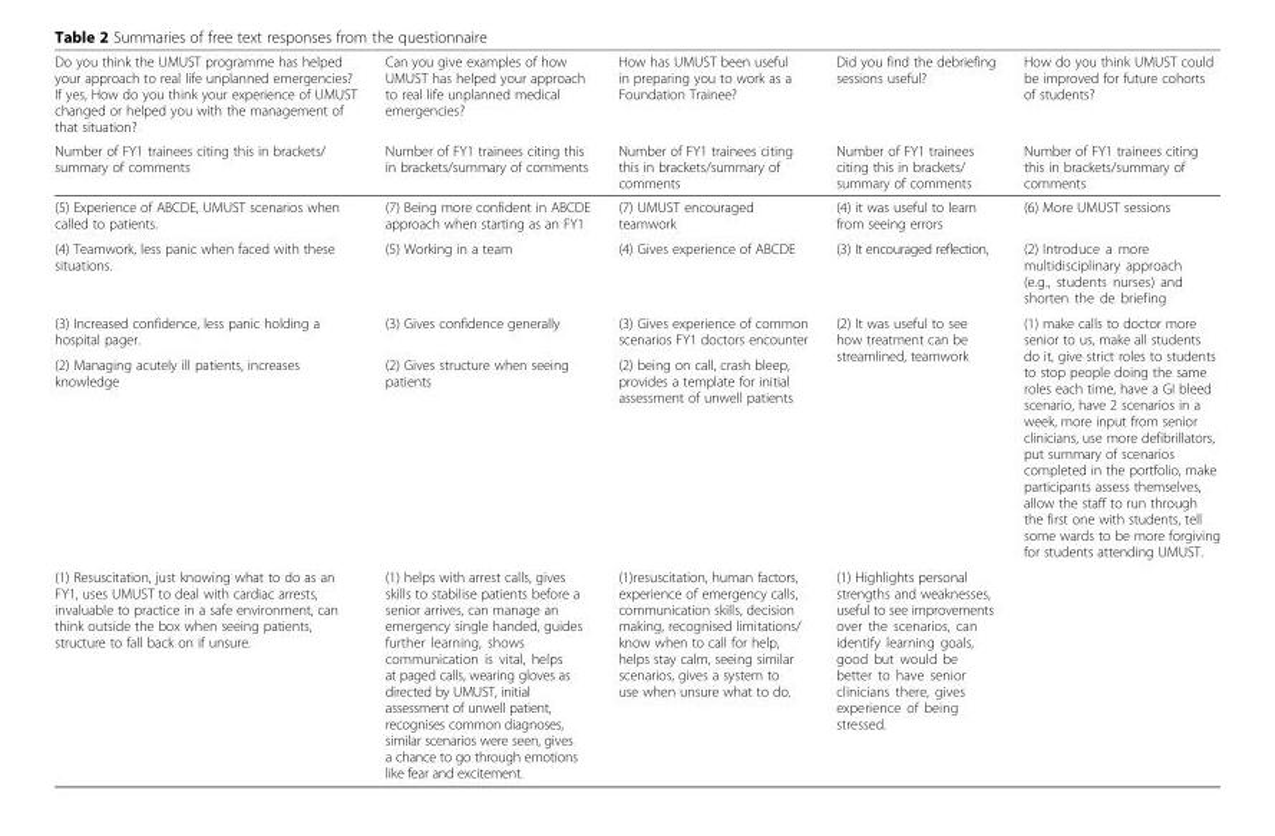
<table><thead><tr><td rowspan="2">Do you think the UMUST programme has helped your approach to real life unplanned emergencies? If yes, How do you think your experience of UMUST changed or helped you with the management of that situation? Number of FY1 trainees citing this in brackets/ summary of comments</td><td rowspan="2">Can you give examples of how UMUST has helped your approach to real life unplanned medical emergencies? Number of FY1 trainees citing this in brackets/summary of comments</td><td rowspan="2">How has UMUST been useful in preparing you to work as a Foundation Trainee? Number of FY1 trainees citing this in brackets/summary of comments</td><td rowspan="2">Did you find the debriefing sessions useful? Number of FY1 trainees citing this in brackets/ summary of comments</td><td rowspan="2">How do you think UMUST could be improved for future cohorts of students? Number of FY1 trainees citing this in brackets/summary of comments</td></tr><tr></tr></thead><tbody><tr><td>(5) Experience of ABCDE, UMUST scenarios when called to patients.</td><td>(7) Being more confident in ABCDE approach when starting as an FY1</td><td>(7) UMUST encouraged teamwork</td><td>(4) it was useful to learn from seeing errors</td><td>(6) More UMUST sessions</td></tr><tr><td>(4) Teamwork, less panic when faced with these situations.</td><td>(5) Working in a team</td><td>(4) Gives experience of ABCDE</td><td>(3) It encouraged reflection,</td><td>(2) Introduce a more multidisciplinary approach (e.g., students nurses) and shorten the de briefing</td></tr><tr><td>(3) Increased confidence, less panic holding a hospital pager.</td><td>(3) Gives confidence generally</td><td>(3) Gives experience of common scenarios FY1 doctors encounter</td><td rowspan="2">(2) It was useful to see how treatment can be streamlined, teamwork</td><td rowspan="2">(1) make calls to doctor more senior to us, make all students do it, give strict roles to students to stop people doing the same roles each time, have a GI bleed scenario, have 2 scenarios in a week, more input from senior clinicians, use more defibrillators, put summary of scenarios completed in the portfolio, make participants assess themselves, allow the staff to run through the first one with students, tell some wards to be more forgiving for students attending UMUST.</td></tr><tr><td>(2) Managing acutely ill patients, increases knowledge</td><td>(2) Gives structure when seeing patients</td><td>(2) being on call, crash bleep, provides a template for initial assessment of unwell patients</td></tr><tr><td>(1) Resuscitation, just knowing what to do as an FY1, uses UMUST to deal with cardiac arrests, invaluable to practice in a safe environment, can think outside the box when seeing patients, structure to fall back on if unsure.</td><td>(1) helps with arrest calls, gives skills to stabilise patients before a senior arrives, can manage an emergency single handed, guides further learning, shows communication is vital, helps at paged calls, wearing gloves as directed by UMUST, initial assessment of unwell patient, recognises common diagnoses, similar scenarios were seen, gives a chance to go through emotions like fear and excitement.</td><td>(1)resuscitation, human factors, experience of emergency calls, communication skills, decision making, recognised limitations/ know when to call for help, helps stay calm, seeing similar scenarios, gives a system to use when unsure what to do.</td><td>(1) Highlights personal strengths and weaknesses, useful to see improvements over the scenarios, can identify learning goals, good but would be better to have senior clinicians there, gives experience of being stressed.</td><td></td></tr></tbody></table>